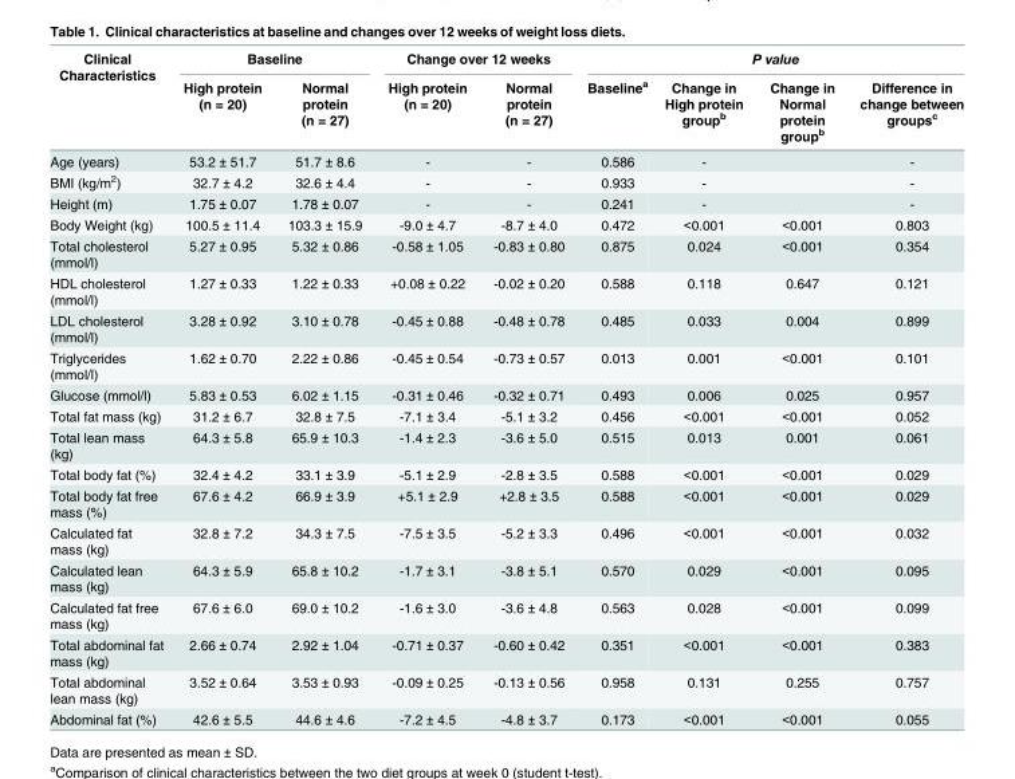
<table><thead><tr><td rowspan="2">Clinical Characteristics</td><td colspan="2">Baseline</td><td colspan="2">Change over 12 weeks</td><td colspan="4">P value</td></tr><tr><td>High protein (n = 20)</td><td>Normal protein (n = 27)</td><td>High protein (n = 20)</td><td>Normal protein (n = 27)</td><td>Baseline<sup>a</sup></td><td>Change in High protein group<sup>b</sup></td><td>Change in Normal protein group<sup>b</sup></td><td>Difference in change between groups<sup>c</sup></td></tr></thead><tbody><tr><td>Age (years)</td><td>53.2 ± 51.7</td><td>51.7 ± 8.6</td><td>-</td><td>-</td><td>0.586</td><td>-</td><td></td><td>-</td></tr><tr><td>BMI (kg/m<sup>2</sup>)</td><td>32.7 ± 4.2</td><td>32.6 ± 4.4</td><td>-</td><td>-</td><td>0.933</td><td>-</td><td></td><td>-</td></tr><tr><td>Height (m)</td><td>1.75 ± 0.07</td><td>1.78 ± 0.07</td><td>-</td><td>-</td><td>0.241</td><td>-</td><td></td><td>-</td></tr><tr><td>Body Weight (kg)</td><td>100.5 ± 11.4</td><td>103.3 ± 15.9</td><td>-9.0 ± 4.7</td><td>-8.7 ± 4.0</td><td>0.472</td><td>&lt;0.001</td><td>&lt;0.001</td><td>0.803</td></tr><tr><td>Total cholesterol (mmol/l)</td><td>5.27 ± 0.95</td><td>5.32 ± 0.86</td><td>-0.58 ± 1.05</td><td>-0.83 ± 0.80</td><td>0.875</td><td>0.024</td><td>&lt;0.001</td><td>0.354</td></tr><tr><td>HDL cholesterol (mmol/l)</td><td>1.27 ± 0.33</td><td>1.22 ± 0.33</td><td>+0.08 ± 0.22</td><td>-0.02 ± 0.20</td><td>0.588</td><td>0.118</td><td>0.647</td><td>0.121</td></tr><tr><td>LDL cholesterol (mmol/l)</td><td>3.28 ± 0.92</td><td>3.10 ± 0.78</td><td>-0.45 ± 0.88</td><td>-0.48 ± 0.78</td><td>0.485</td><td>0.033</td><td>0.004</td><td>0.899</td></tr><tr><td>Triglycerides (mmol/l)</td><td>1.62 ± 0.70</td><td>2.22 ± 0.86</td><td>-0.45 ± 0.54</td><td>-0.73 ± 0.57</td><td>0.013</td><td>0.001</td><td>&lt;0.001</td><td>0.101</td></tr><tr><td>Glucose (mmol/l)</td><td>5.83 ± 0.53</td><td>6.02 ± 1.15</td><td>-0.31 ± 0.46</td><td>-0.32 ± 0.71</td><td>0.493</td><td>0.006</td><td>0.025</td><td>0.957</td></tr><tr><td>Total fat mass (kg)</td><td>31.2 ± 6.7</td><td>32.8 ± 7.5</td><td>-7.1 ± 3.4</td><td>-5.1 ± 3.2</td><td>0.456</td><td>&lt;0.001</td><td>&lt;0.001</td><td>0.052</td></tr><tr><td>Total lean mass (kg)</td><td>64.3 ± 5.8</td><td>65.9 ± 10.3</td><td>-1.4 ± 2.3</td><td>-3.6 ± 5.0</td><td>0.515</td><td>0.013</td><td>0.001</td><td>0.061</td></tr><tr><td>Total body fat (%)</td><td>32.4 ± 4.2</td><td>33.1 ± 3.9</td><td>-5.1 ± 2.9</td><td>-2.8 ± 3.5</td><td>0.588</td><td>&lt;0.001</td><td>&lt;0.001</td><td>0.029</td></tr><tr><td>Total body fat free mass (%)</td><td>67.6 ± 4.2</td><td>66.9 ± 3.9</td><td>+5.1 ± 2.9</td><td>+2.8 ± 3.5</td><td>0.588</td><td>&lt;0.001</td><td>&lt;0.001</td><td>0.029</td></tr><tr><td>Calculated fat mass (kg)</td><td>32.8 ± 7.2</td><td>34.3 ± 7.5</td><td>-7.5 ± 3.5</td><td>-5.2 ± 3.3</td><td>0.496</td><td>&lt;0.001</td><td>&lt;0.001</td><td>0.032</td></tr><tr><td>Calculated lean mass (kg)</td><td>64.3 ± 5.9</td><td>65.8 ± 10.2</td><td>-1.7 ± 3.1</td><td>-3.8 ± 5.1</td><td>0.570</td><td>0.029</td><td>&lt;0.001</td><td>0.095</td></tr><tr><td>Calculated fat free mass (kg)</td><td>67.6 ± 6.0</td><td>69.0 ± 10.2</td><td>-1.6 ± 3.0</td><td>-3.6 ± 4.8</td><td>0.563</td><td>0.028</td><td>&lt;0.001</td><td>0.099</td></tr><tr><td>Total abdominal fat mass (kg)</td><td>2.66 ± 0.74</td><td>2.92 ± 1.04</td><td>-0.71 ± 0.37</td><td>-0.60 ± 0.42</td><td>0.351</td><td>&lt;0.001</td><td>&lt;0.001</td><td>0.383</td></tr><tr><td>Total abdominal lean mass (kg)</td><td>3.52 ± 0.64</td><td>3.53 ± 0.93</td><td>-0.09 ± 0.25</td><td>-0.13 ± 0.56</td><td>0.958</td><td>0.131</td><td>0.255</td><td>0.757</td></tr><tr><td>Abdominal fat (%)</td><td>42.6 ± 5.5</td><td>44.6 ± 4.6</td><td>-7.2 ± 4.5</td><td>-4.8 ± 3.7</td><td>0.173</td><td>&lt;0.001</td><td>&lt;0.001</td><td>0.055</td></tr></tbody></table>